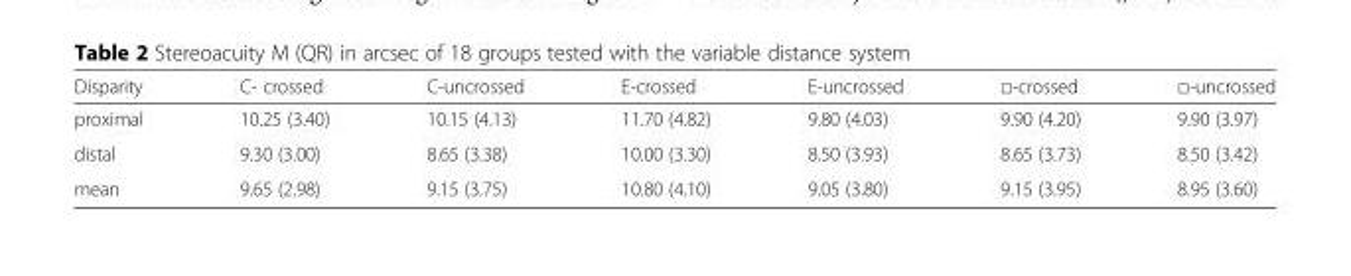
<table><thead><tr><td>Disparity</td><td>C- crossed</td><td>C-uncrossed</td><td>E-crossed</td><td>E-uncrossed</td><td>□-crossed</td><td>□-uncrossed</td></tr></thead><tbody><tr><td>proximal</td><td>10.25 (3.40)</td><td>10.15 (4.13)</td><td>11.70 (4.82)</td><td>9.80 (4.03)</td><td>9.90 (4.20)</td><td>9.90 (3.97)</td></tr><tr><td>distal</td><td>9.30 (3.00)</td><td>8.65 (3.38)</td><td>10.00 (3.30)</td><td>8.50 (3.93)</td><td>8.65 (3.73)</td><td>8.50 (3.42)</td></tr><tr><td>mean</td><td>9.65 (2.98)</td><td>9.15 (3.75)</td><td>10.80 (4.10)</td><td>9.05 (3.80)</td><td>9.15 (3.95)</td><td>8.95 (3.60)</td></tr></tbody></table>